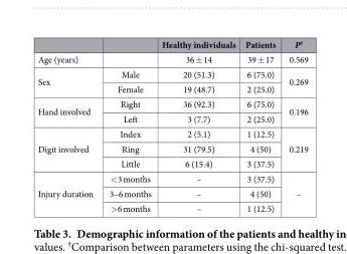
<table><thead><tr><td></td><td></td><td>Healthy individuals</td><td>Patients</td><td>P†</td></tr></thead><tbody><tr><td>Age (years)</td><td></td><td>36 ± 14</td><td>39 ± 17</td><td>0.569</td></tr><tr><td rowspan="2">Sex</td><td>Male</td><td>20 (51.3)</td><td>6 (75.0)</td><td rowspan="2">0.269</td></tr><tr><td>Female</td><td>19 (48.7)</td><td>2 (25.0)</td></tr><tr><td rowspan="2">Hand involved</td><td>Right</td><td>36 (92.3)</td><td>6 (75.0)</td><td rowspan="2">0.196</td></tr><tr><td>Left</td><td>3 (7.7)</td><td>2 (25.0)</td></tr><tr><td rowspan="3">Digit involved</td><td>Index</td><td>2 (5.1)</td><td>1 (12.5)</td><td rowspan="3">0.219</td></tr><tr><td>Ring</td><td>31 (79.5)</td><td>4 (50)</td></tr><tr><td>Little</td><td>6 (15.4)</td><td>3 (37.5)</td></tr><tr><td rowspan="3">Injury duration</td><td>&lt; 3 months</td><td>–</td><td>3 (37.5)</td><td rowspan="3">–</td></tr><tr><td>3–6 months</td><td>–</td><td>4 (50)</td></tr><tr><td>&gt; 6 months</td><td>–</td><td>1 (12.5)</td></tr></tbody></table>